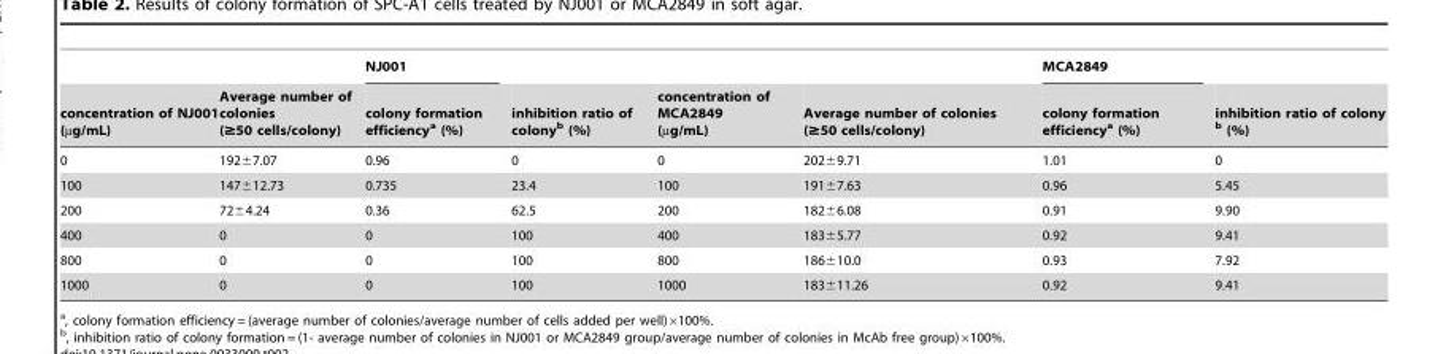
<table><thead><tr><td rowspan="2">concentration of NJ001 (µg/mL)</td><td rowspan="2">Average number of colonies (≥50 cells/colony)</td><td rowspan="2">NJ001 colony formation efficiency<sup>a</sup> (%)</td><td rowspan="2">inhibition ratio of colonyb (%)</td><td rowspan="2">concentration of MCA2849 (µg/mL)</td><td rowspan="2">Average number of colonies (≥50 cells/colony)</td><td rowspan="2">MCA2849 colony formation efficiency<sup>a</sup> (%)</td><td rowspan="2">inhibition ratio of colony b (%)</td></tr><tr></tr></thead><tbody><tr><td>0</td><td>192±7.07</td><td>0.96</td><td>0</td><td>0</td><td>202±9.71</td><td>1.01</td><td>0</td></tr><tr><td>100</td><td>147±12.73</td><td>0.735</td><td>23.4</td><td>100</td><td>191±7.63</td><td>0.96</td><td>5.45</td></tr><tr><td>200</td><td>72±4.24</td><td>0.36</td><td>62.5</td><td>200</td><td>182±6.08</td><td>0.91</td><td>9.90</td></tr><tr><td>400</td><td>0</td><td>0</td><td>100</td><td>400</td><td>183±5.77</td><td>0.92</td><td>9.41</td></tr><tr><td>800</td><td>0</td><td>0</td><td>100</td><td>800</td><td>186±10.0</td><td>0.93</td><td>7.92</td></tr><tr><td>1000</td><td>0</td><td>0</td><td>100</td><td>1000</td><td>183±11.26</td><td>0.92</td><td>9.41</td></tr></tbody></table>